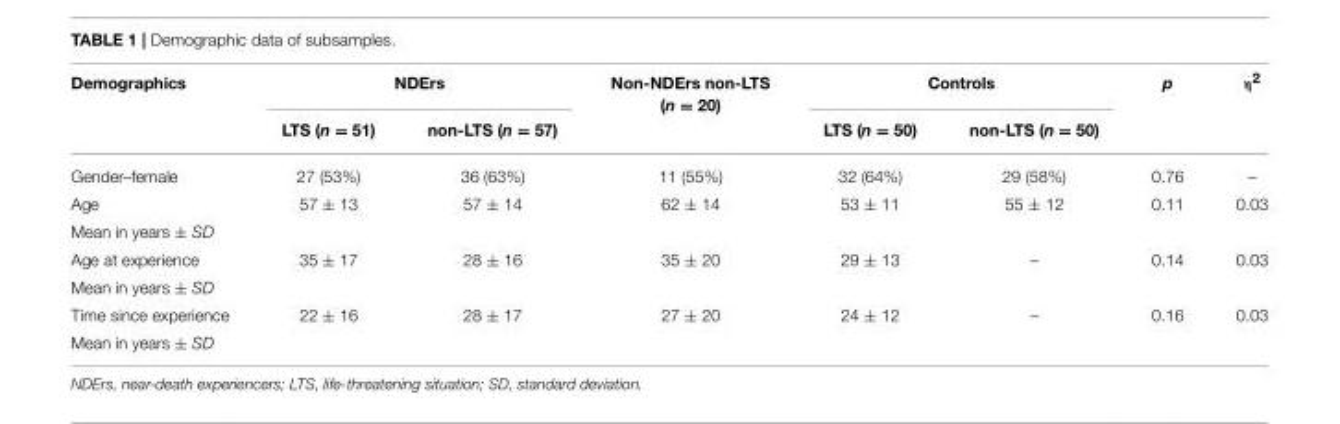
<table><thead><tr><td rowspan="2">Demographics</td><td colspan="2">NDErs</td><td rowspan="2">Non-NDErs non-LTS (n = 20)</td><td colspan="2">Controls</td><td rowspan="2">p</td><td rowspan="2">η<sup>2</sup></td></tr><tr><td>LTS (n = 51)</td><td>non-LTS (n = 57)</td><td>LTS (n = 50)</td><td>non-LTS (n = 50)</td></tr></thead><tbody><tr><td>Gender–female</td><td>27 (53%)</td><td>36 (63%)</td><td>11 (55%)</td><td>32 (64%)</td><td>29 (58%)</td><td>0.76</td><td>–</td></tr><tr><td>Age</td><td>57 ± 13</td><td>57 ± 14</td><td>62 ± 14</td><td>53 ± 11</td><td>55 ± 12</td><td>0.11</td><td>0.03</td></tr><tr><td colspan="8">Mean in years ± SD</td></tr><tr><td>Age at experience</td><td>35 ± 17</td><td>28 ± 16</td><td>35 ± 20</td><td>29 ± 13</td><td>–</td><td>0.14</td><td>0.03</td></tr><tr><td colspan="8">Mean in years ± SD</td></tr><tr><td>Time since experience</td><td>22 ± 16</td><td>28 ± 17</td><td>27 ± 20</td><td>24 ± 12</td><td>–</td><td>0.16</td><td>0.03</td></tr><tr><td colspan="8">Mean in years ± SD</td></tr></tbody></table>